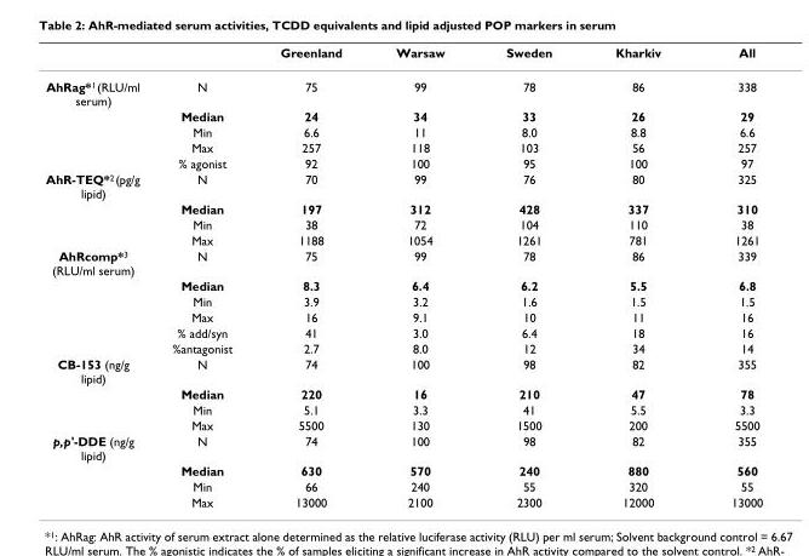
<table><thead><tr><td></td><td></td><td>Greenland</td><td>Warsaw</td><td>Sweden</td><td>Kharkiv</td><td>All</td></tr></thead><tbody><tr><td rowspan="5">AhRag*<sup>1</sup> (RLU/ml serum)</td><td>N</td><td>75</td><td>99</td><td>78</td><td>86</td><td>338</td></tr><tr><td>Median</td><td>24</td><td>34</td><td>33</td><td>26</td><td>29</td></tr><tr><td>Min</td><td>6.6</td><td>11</td><td>8.0</td><td>8.8</td><td>6.6</td></tr><tr><td>Max</td><td>257</td><td>118</td><td>103</td><td>56</td><td>257</td></tr><tr><td>% agonist</td><td>92</td><td>100</td><td>95</td><td>100</td><td>97</td></tr><tr><td rowspan="4">AhR-TEQ*<sup>2</sup> (pg/g lipid)</td><td>N</td><td>70</td><td>99</td><td>76</td><td>80</td><td>325</td></tr><tr><td>Median</td><td>197</td><td>312</td><td>428</td><td>337</td><td>310</td></tr><tr><td>Min</td><td>38</td><td>72</td><td>104</td><td>110</td><td>38</td></tr><tr><td>Max</td><td>1188</td><td>1054</td><td>1261</td><td>781</td><td>1261</td></tr><tr><td rowspan="6">AhRcomp*<sup>3</sup> (RLU/ml serum)</td><td>N</td><td>75</td><td>99</td><td>78</td><td>86</td><td>339</td></tr><tr><td>Median</td><td>8.3</td><td>6.4</td><td>6.2</td><td>5.5</td><td>6.8</td></tr><tr><td>Min</td><td>3.9</td><td>3.2</td><td>1.6</td><td>1.5</td><td>1.5</td></tr><tr><td>Max</td><td>16</td><td>9.1</td><td>10</td><td>11</td><td>16</td></tr><tr><td>% add/syn</td><td>41</td><td>3.0</td><td>6.4</td><td>18</td><td>16</td></tr><tr><td>%antagonist</td><td>2.7</td><td>8.0</td><td>12</td><td>34</td><td>14</td></tr><tr><td rowspan="4">CB-153 (ng/g lipid)</td><td>N</td><td>74</td><td>100</td><td>98</td><td>82</td><td>355</td></tr><tr><td>Median</td><td>220</td><td>16</td><td>210</td><td>47</td><td>78</td></tr><tr><td>Min</td><td>5.1</td><td>3.3</td><td>41</td><td>5.5</td><td>3.3</td></tr><tr><td>Max</td><td>5500</td><td>130</td><td>1500</td><td>200</td><td>5500</td></tr><tr><td rowspan="4">p,p&#x27;-DDE (ng/g lipid)</td><td>N</td><td>74</td><td>100</td><td>98</td><td>82</td><td>355</td></tr><tr><td>Median</td><td>630</td><td>570</td><td>240</td><td>880</td><td>560</td></tr><tr><td>Min</td><td>66</td><td>240</td><td>55</td><td>320</td><td>55</td></tr><tr><td>Max</td><td>13000</td><td>2100</td><td>2300</td><td>12000</td><td>13000</td></tr></tbody></table>